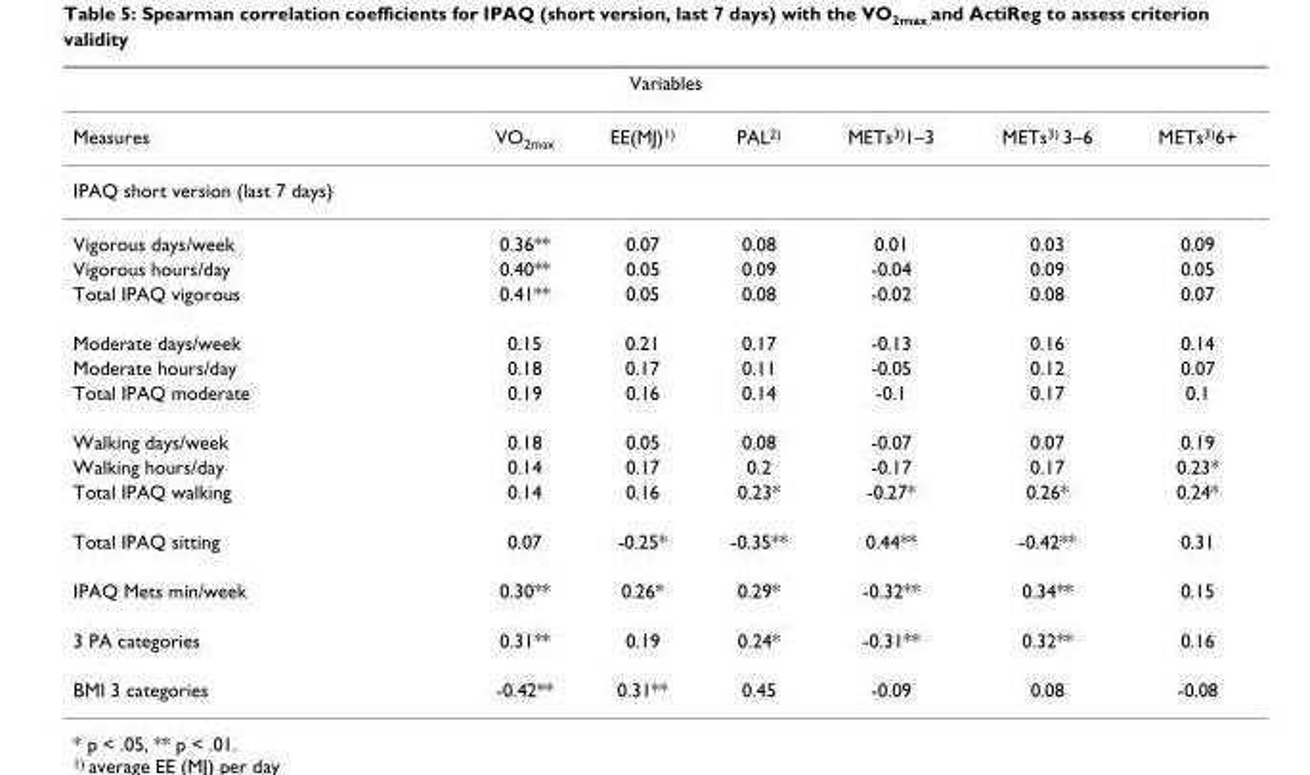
<table><thead><tr><td colspan="7">Variables</td></tr><tr><td>Measures</td><td>VO<sub>2max</sub></td><td>EE(MJ)<sup>1)</sup></td><td>PAL<sup>2)</sup></td><td>METs<sup>3)</sup>1–3</td><td>METs<sup>3)</sup> 3–6</td><td>METs<sup>3)</sup>6+</td></tr></thead><tbody><tr><td colspan="7">IPAQ short version (last 7 days)</td></tr><tr><td>Vigorous days/week</td><td>0.36**</td><td>0.07</td><td>0.08</td><td>0.01</td><td>0.03</td><td>0.09</td></tr><tr><td>Vigorous hours/day</td><td>0.40**</td><td>0.05</td><td>0.09</td><td>-0.04</td><td>0.09</td><td>0.05</td></tr><tr><td>Total IPAQ vigorous</td><td>0.41**</td><td>0.05</td><td>0.08</td><td>-0.02</td><td>0.08</td><td>0.07</td></tr><tr><td>Moderate days/week</td><td>0.15</td><td>0.21</td><td>0.17</td><td>-0.13</td><td>0.16</td><td>0.14</td></tr><tr><td>Moderate hours/day</td><td>0.18</td><td>0.17</td><td>0.11</td><td>-0.05</td><td>0.12</td><td>0.07</td></tr><tr><td>Total IPAQ moderate</td><td>0.19</td><td>0.16</td><td>0.14</td><td>-0.1</td><td>0.17</td><td>0.1</td></tr><tr><td>Walking days/week</td><td>0.18</td><td>0.05</td><td>0.08</td><td>-0.07</td><td>0.07</td><td>0.19</td></tr><tr><td>Walking hours/day</td><td>0.14</td><td>0.17</td><td>0.2</td><td>-0.17</td><td>0.17</td><td>0.23*</td></tr><tr><td>Total IPAQ walking</td><td>0.14</td><td>0.16</td><td>0.23*</td><td>-0.27*</td><td>0.26*</td><td>0.24*</td></tr><tr><td>Total IPAQ sitting</td><td>0.07</td><td>-0.25*</td><td>-0.35**</td><td>0.44**</td><td>-0.42**</td><td>0.31</td></tr><tr><td>IPAQ Mets min/week</td><td>0.30**</td><td>0.26*</td><td>0.29*</td><td>-0.32**</td><td>0.34**</td><td>0.15</td></tr><tr><td>3 PA categories</td><td>0.31**</td><td>0.19</td><td>0.24*</td><td>-0.31**</td><td>0.32**</td><td>0.16</td></tr><tr><td>BMI 3 categories</td><td>-0.42**</td><td>0.31**</td><td>0.45</td><td>-0.09</td><td>0.08</td><td>-0.08</td></tr></tbody></table>